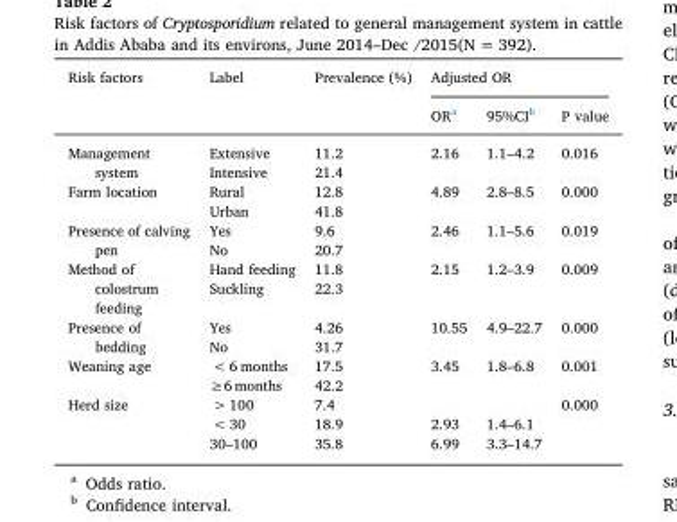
<table><thead><tr><td rowspan="2">Risk factors</td><td rowspan="2">Label</td><td rowspan="2">Prevalence (%)</td><td colspan="3">Adjusted OR</td></tr><tr><td>OR<sup>a</sup></td><td>95%CI<sup>b</sup></td><td>P value</td></tr></thead><tbody><tr><td rowspan="2">Management system</td><td>Extensive</td><td>11.2</td><td rowspan="2">2.16</td><td rowspan="2">1.1–4.2</td><td rowspan="2">0.016</td></tr><tr><td>Intensive</td><td>21.4</td></tr><tr><td rowspan="2">Farm location</td><td>Rural</td><td>12.8</td><td rowspan="2">4.89</td><td rowspan="2">2.8–8.5</td><td rowspan="2">0.000</td></tr><tr><td>Urban</td><td>41.8</td></tr><tr><td rowspan="2">Presence of calving pen</td><td>Yes</td><td>9.6</td><td rowspan="2">2.46</td><td rowspan="2">1.1–5.6</td><td rowspan="2">0.019</td></tr><tr><td>No</td><td>20.7</td></tr><tr><td rowspan="2">Method of colostrum feeding</td><td>Hand feeding</td><td>11.8</td><td rowspan="2">2.15</td><td rowspan="2">1.2–3.9</td><td rowspan="2">0.009</td></tr><tr><td>Suckling</td><td>22.3</td></tr><tr><td rowspan="2">Presence of bedding</td><td>Yes</td><td>4.26</td><td rowspan="2">10.55</td><td rowspan="2">4.9–22.7</td><td rowspan="2">0.000</td></tr><tr><td>No</td><td>31.7</td></tr><tr><td rowspan="2">Weaning age</td><td>&lt; 6 months</td><td>17.5</td><td rowspan="2">3.45</td><td rowspan="2">1.8–6.8</td><td rowspan="2">0.001</td></tr><tr><td>≥6 months</td><td>42.2</td></tr><tr><td rowspan="3">Herd size</td><td>&gt; 100</td><td>7.4</td><td></td><td></td><td rowspan="3">0.000</td></tr><tr><td>&lt; 30</td><td>18.9</td><td>2.93</td><td>1.4–6.1</td></tr><tr><td>30–100</td><td>35.8</td><td>6.99</td><td>3.3–14.7</td></tr></tbody></table>